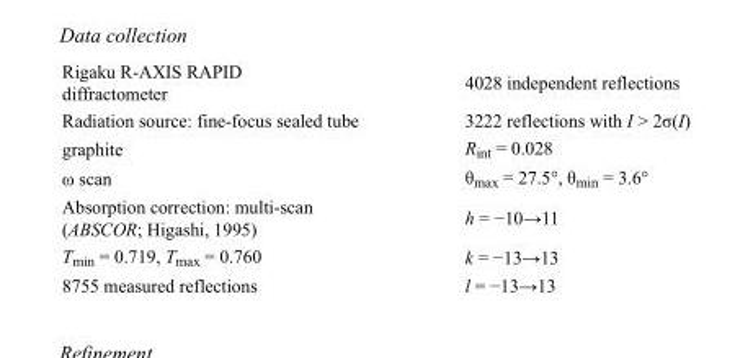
<table><tbody><tr><td>Rigaku R-AXIS RAPID diffractometer</td><td>4028 independent reflections</td></tr><tr><td>Radiation source: fine-focus sealed tube</td><td>3222 reflections with I &gt; 2σ(I)</td></tr><tr><td>graphite</td><td>R<sub>int</sub> = 0.028</td></tr><tr><td>ω scan</td><td>θ<sub>max</sub> = 27.5°, θ<sub>min</sub> = 3.6°</td></tr><tr><td>Absorption correction: multi-scan (ABSCOR; Higashi, 1995)</td><td>h = −10→11</td></tr><tr><td>T<sub>min</sub> = 0.719, T<sub>max</sub> = 0.760</td><td>k = −13→13</td></tr><tr><td>8755 measured reflections</td><td>l = −13→13</td></tr></tbody></table>